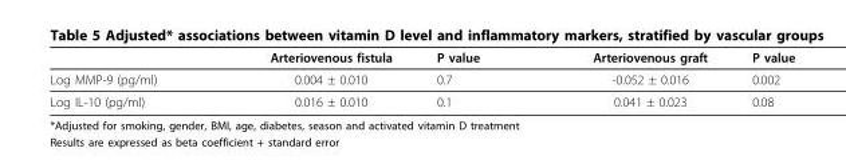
<table><thead><tr><td></td><td>Arteriovenous fistula</td><td>P value</td><td>Arteriovenous graft</td><td>P value</td></tr></thead><tbody><tr><td>Log MMP-9 (pg/ml)</td><td>0.004 ± 0.010</td><td>0.7</td><td>-0.052 ± 0.016</td><td>0.002</td></tr><tr><td>Log IL-10 (pg/ml)</td><td>0.016 ± 0.010</td><td>0.1</td><td>0.041 ± 0.023</td><td>0.08</td></tr></tbody></table>